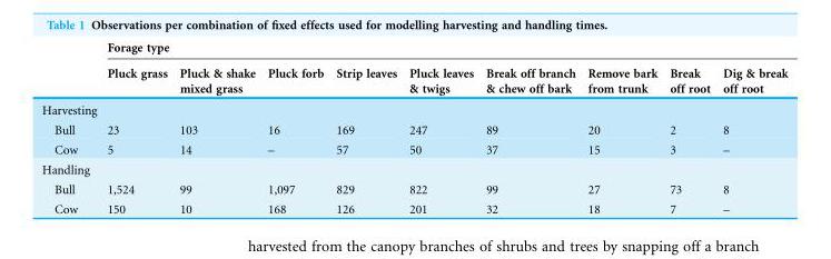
<table><thead><tr><td rowspan="2"></td><td colspan="9">Forage type</td></tr><tr><td>Pluck grass</td><td>Pluck &amp; shake mixed grass</td><td>Pluck forb</td><td>Strip leaves</td><td>Pluck leaves &amp; twigs</td><td>Break off branch &amp; chew off bark</td><td>Remove bark from trunk</td><td>Break off root</td><td>Dig &amp; break off root</td></tr></thead><tbody><tr><td colspan="10">Harvesting</td></tr><tr><td>Bull</td><td>23</td><td>103</td><td>16</td><td>169</td><td>247</td><td>89</td><td>20</td><td>2</td><td>8</td></tr><tr><td>Cow</td><td>5</td><td>14</td><td>–</td><td>57</td><td>50</td><td>37</td><td>15</td><td>3</td><td>–</td></tr><tr><td colspan="10">Handling</td></tr><tr><td>Bull</td><td>1,524</td><td>99</td><td>1,097</td><td>829</td><td>822</td><td>99</td><td>27</td><td>73</td><td>8</td></tr><tr><td>Cow</td><td>150</td><td>10</td><td>168</td><td>126</td><td>201</td><td>32</td><td>18</td><td>7</td><td>–</td></tr></tbody></table>